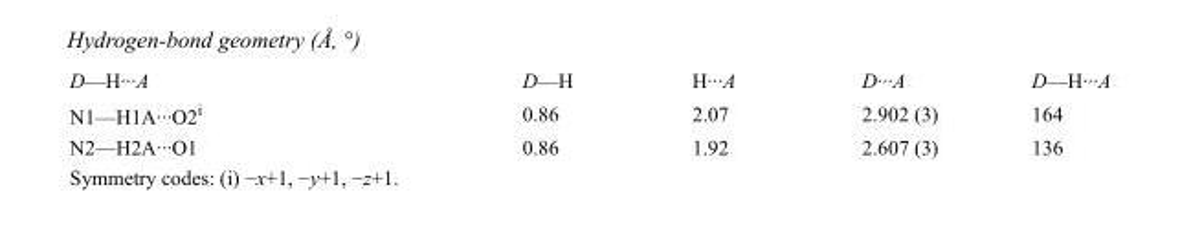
<table><tbody><tr><td>D—H···A</td><td>D—H</td><td>H···A</td><td>D···A</td><td>D—H···A</td></tr><tr><td>N1—H1A···O2<sup>i</sup></td><td>0.86</td><td>2.07</td><td>2.902 (3)</td><td>164</td></tr><tr><td>N2—H2A···O1</td><td>0.86</td><td>1.92</td><td>2.607 (3)</td><td>136</td></tr></tbody></table>